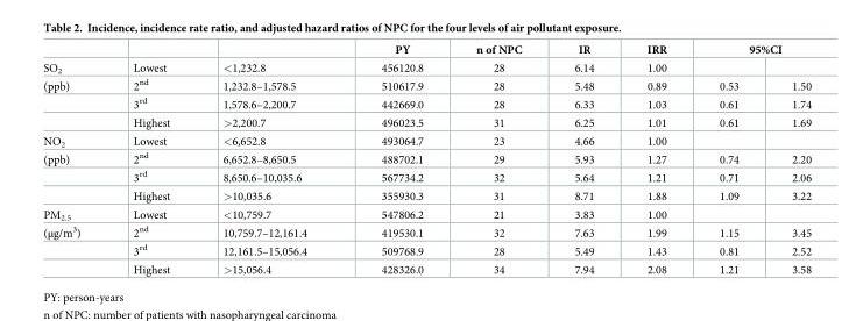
<table><thead><tr><td rowspan="2">SO<sub>2</sub></td><td rowspan="2">Lowest</td><td rowspan="2">&lt;1,232.8</td><td rowspan="2">PY 456120.8</td><td rowspan="2">n of NPC 28</td><td rowspan="2">IR 6.14</td><td rowspan="2">IRR 1.00</td><td colspan="2">95%CI</td></tr><tr><td></td><td></td></tr></thead><tbody><tr><td rowspan="3">(ppb)</td><td>2<sup>nd</sup></td><td>1,232.8–1,578.5</td><td>510617.9</td><td>28</td><td>5.48</td><td>0.89</td><td>0.53</td><td>1.50</td></tr><tr><td>3<sup>rd</sup></td><td>1,578.6–2,200.7</td><td>442669.0</td><td>28</td><td>6.33</td><td>1.03</td><td>0.61</td><td>1.74</td></tr><tr><td>Highest</td><td>&gt;2,200.7</td><td>496023.5</td><td>31</td><td>6.25</td><td>1.01</td><td>0.61</td><td>1.69</td></tr><tr><td>NO<sub>2</sub></td><td>Lowest</td><td>&lt;6,652.8</td><td>493064.7</td><td>23</td><td>4.66</td><td>1.00</td><td></td><td></td></tr><tr><td rowspan="3">(ppb)</td><td>2<sup>nd</sup></td><td>6,652.8–8,650.5</td><td>488702.1</td><td>29</td><td>5.93</td><td>1.27</td><td>0.74</td><td>2.20</td></tr><tr><td>3<sup>rd</sup></td><td>8,650.6–10,035.6</td><td>567734.2</td><td>32</td><td>5.64</td><td>1.21</td><td>0.71</td><td>2.06</td></tr><tr><td>Highest</td><td>&gt;10,035.6</td><td>355930.3</td><td>31</td><td>8.71</td><td>1.88</td><td>1.09</td><td>3.22</td></tr><tr><td>PM<sub>2.5</sub></td><td>Lowest</td><td>&lt;10,759.7</td><td>547806.2</td><td>21</td><td>3.83</td><td>1.00</td><td></td><td></td></tr><tr><td rowspan="3">(μg/m<sup>3</sup>)</td><td>2<sup>nd</sup></td><td>10,759.7–12,161.4</td><td>419530.1</td><td>32</td><td>7.63</td><td>1.99</td><td>1.15</td><td>3.45</td></tr><tr><td>3<sup>rd</sup></td><td>12,161.5–15,056.4</td><td>509768.9</td><td>28</td><td>5.49</td><td>1.43</td><td>0.81</td><td>2.52</td></tr><tr><td>Highest</td><td>&gt;15,056.4</td><td>428326.0</td><td>34</td><td>7.94</td><td>2.08</td><td>1.21</td><td>3.58</td></tr></tbody></table>